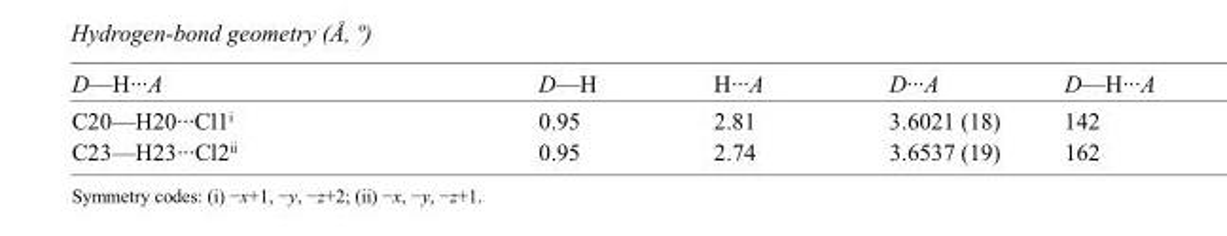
<table><tbody><tr><td>D—H···A</td><td>D—H</td><td>H···A</td><td>D···A</td><td>D—H···A</td></tr><tr><td>C20—H20···Cl1<sup>i</sup></td><td>0.95</td><td>2.81</td><td>3.6021 (18)</td><td>142</td></tr><tr><td>C23—H23···Cl2<sup>ii</sup></td><td>0.95</td><td>2.74</td><td>3.6537 (19)</td><td>162</td></tr></tbody></table>